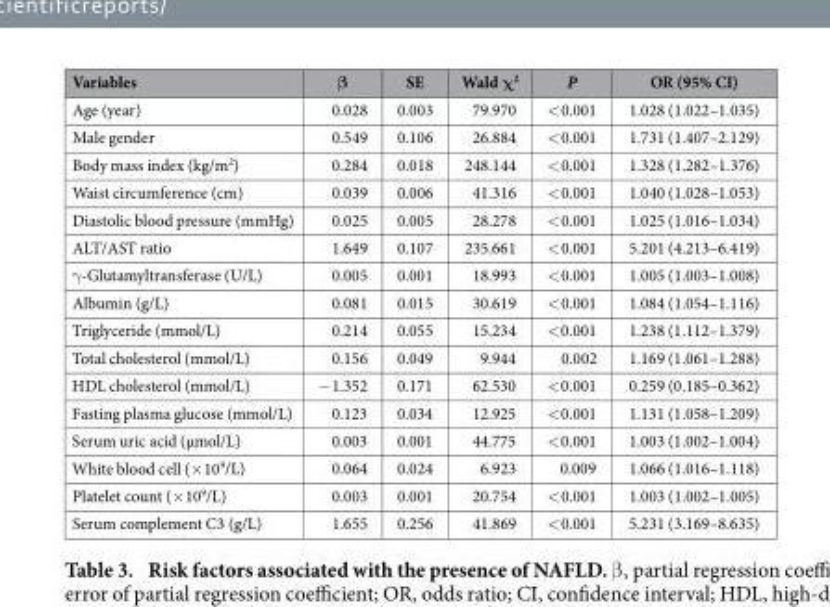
<table><thead><tr><td>Variables</td><td>β</td><td>SE</td><td>Wald χ<sup>2</sup></td><td>P</td><td>OR (95% CI)</td></tr></thead><tbody><tr><td>Age (year)</td><td>0.028</td><td>0.003</td><td>79.970</td><td>&lt; 0.001</td><td>1.028 (1.022–1.035)</td></tr><tr><td>Male gender</td><td>0.549</td><td>0.106</td><td>26.884</td><td>&lt; 0.001</td><td>1.731 (1.407–2.129)</td></tr><tr><td>Body mass index (kg/m<sup>2</sup>)</td><td>0.284</td><td>0.018</td><td>248.144</td><td>&lt; 0.001</td><td>1.328 (1.282–1.376)</td></tr><tr><td>Waist circumference (cm)</td><td>0.039</td><td>0.006</td><td>41.316</td><td>&lt; 0.001</td><td>1.040 (1.028–1.053)</td></tr><tr><td>Diastolic blood pressure (mmHg)</td><td>0.025</td><td>0.005</td><td>28.278</td><td>&lt; 0.001</td><td>1.025 (1.016–1.034)</td></tr><tr><td>ALT/AST ratio</td><td>1.649</td><td>0.107</td><td>235.661</td><td>&lt; 0.001</td><td>5.201 (4.213–6.419)</td></tr><tr><td>γ -Glutamyltransferase (U/L)</td><td>0.005</td><td>0.001</td><td>18.993</td><td>&lt; 0.001</td><td>1.005 (1.003–1.008)</td></tr><tr><td>Albumin (g/L)</td><td>0.081</td><td>0.015</td><td>30.619</td><td>&lt; 0.001</td><td>1.084 (1.054–1.116)</td></tr><tr><td>Triglyceride (mmol/L)</td><td>0.214</td><td>0.055</td><td>15.234</td><td>&lt; 0.001</td><td>1.238 (1.112–1.379)</td></tr><tr><td>Total cholesterol (mmol/L)</td><td>0.156</td><td>0.049</td><td>9.944</td><td>0.002</td><td>1.169 (1.061–1.288)</td></tr><tr><td>HDL cholesterol (mmol/L)</td><td>− 1.352</td><td>0.171</td><td>62.530</td><td>&lt; 0.001</td><td>0.259 (0.185–0.362)</td></tr><tr><td>Fasting plasma glucose (mmol/L)</td><td>0.123</td><td>0.034</td><td>12.925</td><td>&lt; 0.001</td><td>1.131 (1.058–1.209)</td></tr><tr><td>Serum uric acid (μmol/L)</td><td>0.003</td><td>0.001</td><td>44.775</td><td>&lt; 0.001</td><td>1.003 (1.002–1.004)</td></tr><tr><td>White blood cell (× 10<sup>9</sup>/L)</td><td>0.064</td><td>0.024</td><td>6.923</td><td>0.009</td><td>1.066 (1.016–1.118)</td></tr><tr><td>Platelet count (× 10<sup>9</sup>/L)</td><td>0.003</td><td>0.001</td><td>20.754</td><td>&lt; 0.001</td><td>1.003 (1.002–1.005)</td></tr><tr><td>Serum complement C3 (g/L)</td><td>1.655</td><td>0.256</td><td>41.869</td><td>&lt; 0.001</td><td>5.231 (3.169–8.635)</td></tr></tbody></table>